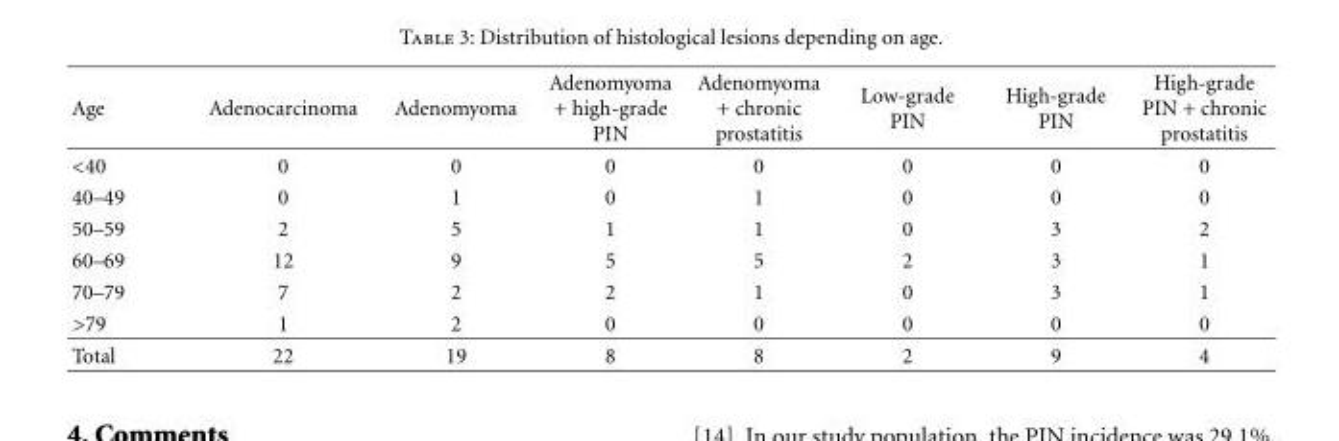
<table><thead><tr><td>Age</td><td>Adenocarcinoma</td><td>Adenomyoma</td><td>Adenomyoma + high-grade PIN</td><td>Adenomyoma + chronic prostatitis</td><td>Low-grade PIN</td><td>High-grade PIN</td><td>High-grade PIN + chronic prostatitis</td></tr></thead><tbody><tr><td>&lt;40</td><td>0</td><td>0</td><td>0</td><td>0</td><td>0</td><td>0</td><td>0</td></tr><tr><td>40–49</td><td>0</td><td>1</td><td>0</td><td>1</td><td>0</td><td>0</td><td>0</td></tr><tr><td>50–59</td><td>2</td><td>5</td><td>1</td><td>1</td><td>0</td><td>3</td><td>2</td></tr><tr><td>60–69</td><td>12</td><td>9</td><td>5</td><td>5</td><td>2</td><td>3</td><td>1</td></tr><tr><td>70–79</td><td>7</td><td>2</td><td>2</td><td>1</td><td>0</td><td>3</td><td>1</td></tr><tr><td>&gt;79</td><td>1</td><td>2</td><td>0</td><td>0</td><td>0</td><td>0</td><td>0</td></tr><tr><td>Total</td><td>22</td><td>19</td><td>8</td><td>8</td><td>2</td><td>9</td><td>4</td></tr></tbody></table>